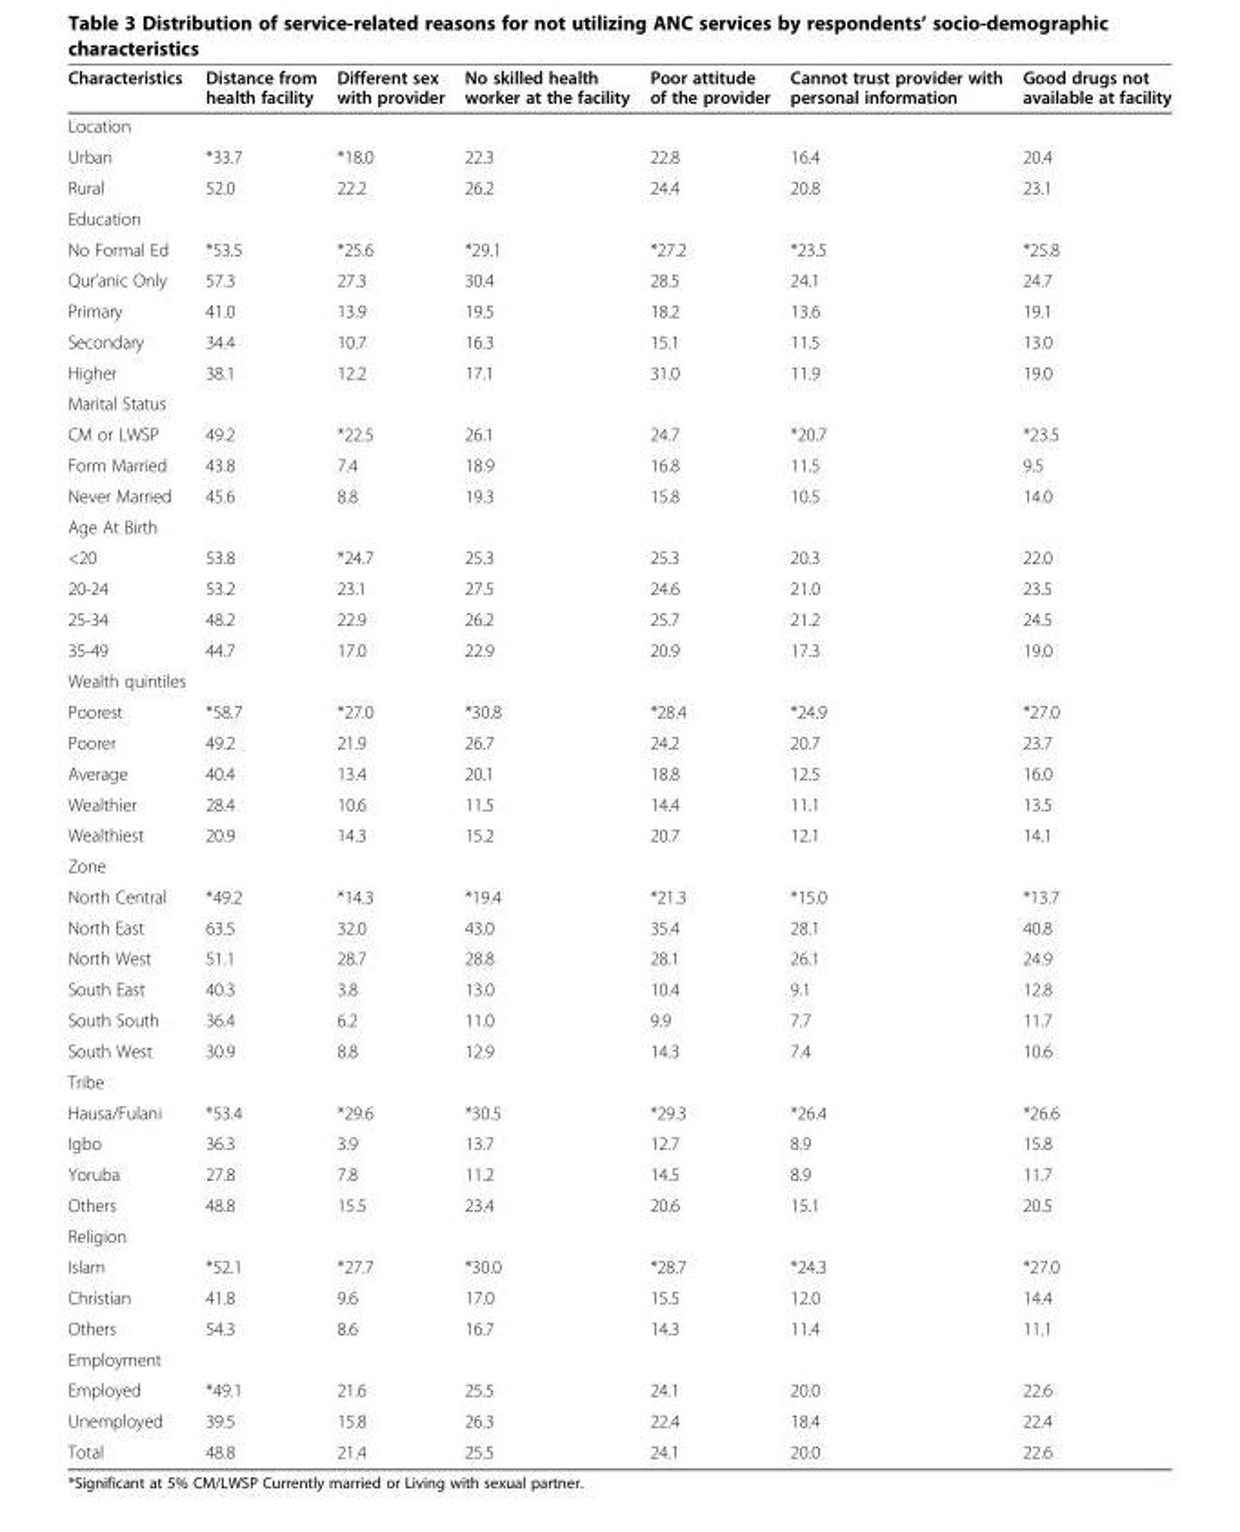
<table><thead><tr><td>Characteristics</td><td>Distance from health facility</td><td>Different sex with provider</td><td>No skilled health worker at the facility</td><td>Poor attitude of the provider</td><td>Cannot trust provider with personal information</td><td>Good drugs not available at facility</td></tr></thead><tbody><tr><td colspan="7">Location</td></tr><tr><td>Urban</td><td>*33.7</td><td>*18.0</td><td>22.3</td><td>22.8</td><td>16.4</td><td>20.4</td></tr><tr><td>Rural</td><td>52.0</td><td>22.2</td><td>26.2</td><td>24.4</td><td>20.8</td><td>23.1</td></tr><tr><td colspan="7">Education</td></tr><tr><td>No Formal Ed</td><td>*53.5</td><td>*25.6</td><td>*29.1</td><td>*27.2</td><td>*23.5</td><td>*25.8</td></tr><tr><td>Qur’anic Only</td><td>57.3</td><td>27.3</td><td>30.4</td><td>28.5</td><td>24.1</td><td>24.7</td></tr><tr><td>Primary</td><td>41.0</td><td>13.9</td><td>19.5</td><td>18.2</td><td>13.6</td><td>19.1</td></tr><tr><td>Secondary</td><td>34.4</td><td>10.7</td><td>16.3</td><td>15.1</td><td>11.5</td><td>13.0</td></tr><tr><td>Higher</td><td>38.1</td><td>12.2</td><td>17.1</td><td>31.0</td><td>11.9</td><td>19.0</td></tr><tr><td colspan="7">Marital Status</td></tr><tr><td>CM or LWSP</td><td>49.2</td><td>*22.5</td><td>26.1</td><td>24.7</td><td>*20.7</td><td>*23.5</td></tr><tr><td>Form Married</td><td>43.8</td><td>7.4</td><td>18.9</td><td>16.8</td><td>11.5</td><td>9.5</td></tr><tr><td>Never Married</td><td>45.6</td><td>8.8</td><td>19.3</td><td>15.8</td><td>10.5</td><td>14.0</td></tr><tr><td colspan="7">Age At Birth</td></tr><tr><td>&lt;20</td><td>53.8</td><td>*24.7</td><td>25.3</td><td>25.3</td><td>20.3</td><td>22.0</td></tr><tr><td>20-24</td><td>53.2</td><td>23.1</td><td>27.5</td><td>24.6</td><td>21.0</td><td>23.5</td></tr><tr><td>25-34</td><td>48.2</td><td>22.9</td><td>26.2</td><td>25.7</td><td>21.2</td><td>24.5</td></tr><tr><td>35-49</td><td>44.7</td><td>17.0</td><td>22.9</td><td>20.9</td><td>17.3</td><td>19.0</td></tr><tr><td colspan="7">Wealth quintiles</td></tr><tr><td>Poorest</td><td>*58.7</td><td>*27.0</td><td>*30.8</td><td>*28.4</td><td>*24.9</td><td>*27.0</td></tr><tr><td>Poorer</td><td>49.2</td><td>21.9</td><td>26.7</td><td>24.2</td><td>20.7</td><td>23.7</td></tr><tr><td>Average</td><td>40.4</td><td>13.4</td><td>20.1</td><td>18.8</td><td>12.5</td><td>16.0</td></tr><tr><td>Wealthier</td><td>28.4</td><td>10.6</td><td>11.5</td><td>14.4</td><td>11.1</td><td>13.5</td></tr><tr><td>Wealthiest</td><td>20.9</td><td>14.3</td><td>15.2</td><td>20.7</td><td>12.1</td><td>14.1</td></tr><tr><td colspan="7">Zone</td></tr><tr><td>North Central</td><td>*49.2</td><td>*14.3</td><td>*19.4</td><td>*21.3</td><td>*15.0</td><td>*13.7</td></tr><tr><td>North East</td><td>63.5</td><td>32.0</td><td>43.0</td><td>35.4</td><td>28.1</td><td>40.8</td></tr><tr><td>North West</td><td>51.1</td><td>28.7</td><td>28.8</td><td>28.1</td><td>26.1</td><td>24.9</td></tr><tr><td>South East</td><td>40.3</td><td>3.8</td><td>13.0</td><td>10.4</td><td>9.1</td><td>12.8</td></tr><tr><td>South South</td><td>36.4</td><td>6.2</td><td>11.0</td><td>9.9</td><td>7.7</td><td>11.7</td></tr><tr><td>South West</td><td>30.9</td><td>8.8</td><td>12.9</td><td>14.3</td><td>7.4</td><td>10.6</td></tr><tr><td colspan="7">Tribe</td></tr><tr><td>Hausa/Fulani</td><td>*53.4</td><td>*29.6</td><td>*30.5</td><td>*29.3</td><td>*26.4</td><td>*26.6</td></tr><tr><td>Igbo</td><td>36.3</td><td>3.9</td><td>13.7</td><td>12.7</td><td>8.9</td><td>15.8</td></tr><tr><td>Yoruba</td><td>27.8</td><td>7.8</td><td>11.2</td><td>14.5</td><td>8.9</td><td>11.7</td></tr><tr><td>Others</td><td>48.8</td><td>15.5</td><td>23.4</td><td>20.6</td><td>15.1</td><td>20.5</td></tr><tr><td colspan="7">Religion</td></tr><tr><td>Islam</td><td>*52.1</td><td>*27.7</td><td>*30.0</td><td>*28.7</td><td>*24.3</td><td>*27.0</td></tr><tr><td>Christian</td><td>41.8</td><td>9.6</td><td>17.0</td><td>15.5</td><td>12.0</td><td>14.4</td></tr><tr><td>Others</td><td>54.3</td><td>8.6</td><td>16.7</td><td>14.3</td><td>11.4</td><td>11.1</td></tr><tr><td colspan="7">Employment</td></tr><tr><td>Employed</td><td>*49.1</td><td>21.6</td><td>25.5</td><td>24.1</td><td>20.0</td><td>22.6</td></tr><tr><td>Unemployed</td><td>39.5</td><td>15.8</td><td>26.3</td><td>22.4</td><td>18.4</td><td>22.4</td></tr><tr><td>Total</td><td>48.8</td><td>21.4</td><td>25.5</td><td>24.1</td><td>20.0</td><td>22.6</td></tr></tbody></table>